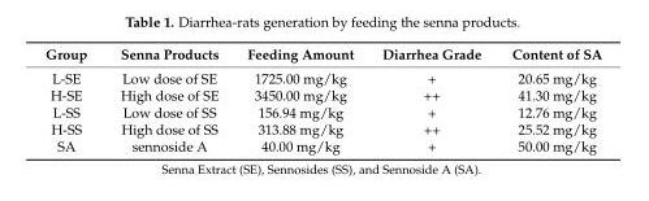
<table><thead><tr><td>Group</td><td>Senna Products</td><td>Feeding Amount</td><td>Diarrhea Grade</td><td>Content of SA</td></tr></thead><tbody><tr><td>L-SE</td><td>Low dose of SE</td><td>1725.00 mg/kg</td><td>+</td><td>20.65 mg/kg</td></tr><tr><td>H-SE</td><td>High dose of SE</td><td>3450.00 mg/kg</td><td>++</td><td>41.30 mg/kg</td></tr><tr><td>L-SS</td><td>Low dose of SS</td><td>156.94 mg/kg</td><td>+</td><td>12.76 mg/kg</td></tr><tr><td>H-SS</td><td>High dose of SS</td><td>313.88 mg/kg</td><td>++</td><td>25.52 mg/kg</td></tr><tr><td>SA</td><td>sennoside A</td><td>40.00 mg/kg</td><td>+</td><td>50.00 mg/kg</td></tr></tbody></table>